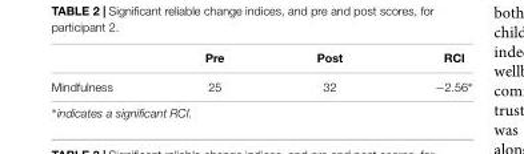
<table><thead><tr><td></td><td>Pre</td><td>Post</td><td>RCI</td></tr></thead><tbody><tr><td>Mindfulness</td><td>25</td><td>32</td><td>−2.56∗</td></tr></tbody></table>